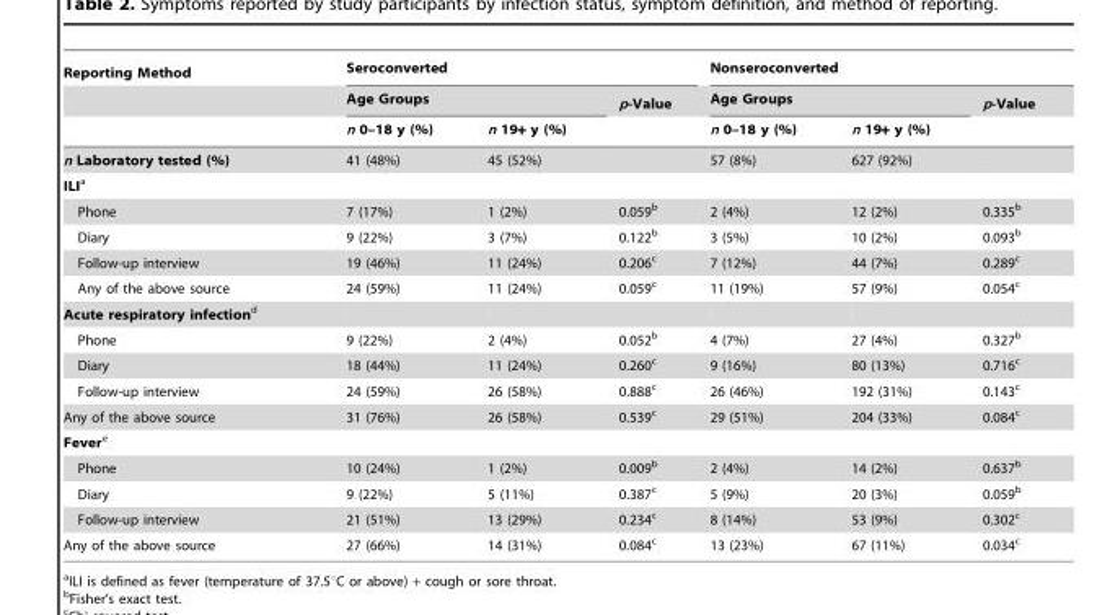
<table><thead><tr><td rowspan="3">Reporting Method</td><td colspan="3">Seroconverted</td><td colspan="3">Nonseroconverted</td></tr><tr><td colspan="2">Age Groups</td><td rowspan="2">p-Value</td><td colspan="2">Age Groups</td><td rowspan="2">p-Value</td></tr><tr><td>n 0–18 y (%)</td><td>n 19+ y (%)</td><td>n 0–18 y (%)</td><td>n 19+ y (%)</td></tr></thead><tbody><tr><td>n Laboratory tested (%)</td><td>41 (48%)</td><td>45 (52%)</td><td></td><td>57 (8%)</td><td>627 (92%)</td><td></td></tr><tr><td colspan="7">ILIa</td></tr><tr><td>Phone</td><td>7 (17%)</td><td>1 (2%)</td><td>0.059<sup>b</sup></td><td>2 (4%)</td><td>12 (2%)</td><td>0.335<sup>b</sup></td></tr><tr><td>Diary</td><td>9 (22%)</td><td>3 (7%)</td><td>0.122<sup>b</sup></td><td>3 (5%)</td><td>10 (2%)</td><td>0.093<sup>b</sup></td></tr><tr><td>Follow-up interview</td><td>19 (46%)</td><td>11 (24%)</td><td>0.206<sup>c</sup></td><td>7 (12%)</td><td>44 (7%)</td><td>0.289<sup>c</sup></td></tr><tr><td>Any of the above source</td><td>24 (59%)</td><td>11 (24%)</td><td>0.059<sup>c</sup></td><td>11 (19%)</td><td>57 (9%)</td><td>0.054<sup>c</sup></td></tr><tr><td colspan="7">Acute respiratory infectiond</td></tr><tr><td>Phone</td><td>9 (22%)</td><td>2 (4%)</td><td>0.052<sup>b</sup></td><td>4 (7%)</td><td>27 (4%)</td><td>0.327<sup>b</sup></td></tr><tr><td>Diary</td><td>18 (44%)</td><td>11 (24%)</td><td>0.260<sup>c</sup></td><td>9 (16%)</td><td>80 (13%)</td><td>0.716<sup>c</sup></td></tr><tr><td>Follow-up interview</td><td>24 (59%)</td><td>26 (58%)</td><td>0.888<sup>c</sup></td><td>26 (46%)</td><td>192 (31%)</td><td>0.143<sup>c</sup></td></tr><tr><td>Any of the above source</td><td>31 (76%)</td><td>26 (58%)</td><td>0.539<sup>c</sup></td><td>29 (51%)</td><td>204 (33%)</td><td>0.084<sup>c</sup></td></tr><tr><td colspan="7">Fevere</td></tr><tr><td>Phone</td><td>10 (24%)</td><td>1 (2%)</td><td>0.009<sup>b</sup></td><td>2 (4%)</td><td>14 (2%)</td><td>0.637<sup>b</sup></td></tr><tr><td>Diary</td><td>9 (22%)</td><td>5 (11%)</td><td>0.387<sup>c</sup></td><td>5 (9%)</td><td>20 (3%)</td><td>0.059<sup>b</sup></td></tr><tr><td>Follow-up interview</td><td>21 (51%)</td><td>13 (29%)</td><td>0.234<sup>c</sup></td><td>8 (14%)</td><td>53 (9%)</td><td>0.302<sup>c</sup></td></tr><tr><td>Any of the above source</td><td>27 (66%)</td><td>14 (31%)</td><td>0.084<sup>c</sup></td><td>13 (23%)</td><td>67 (11%)</td><td>0.034<sup>c</sup></td></tr></tbody></table>